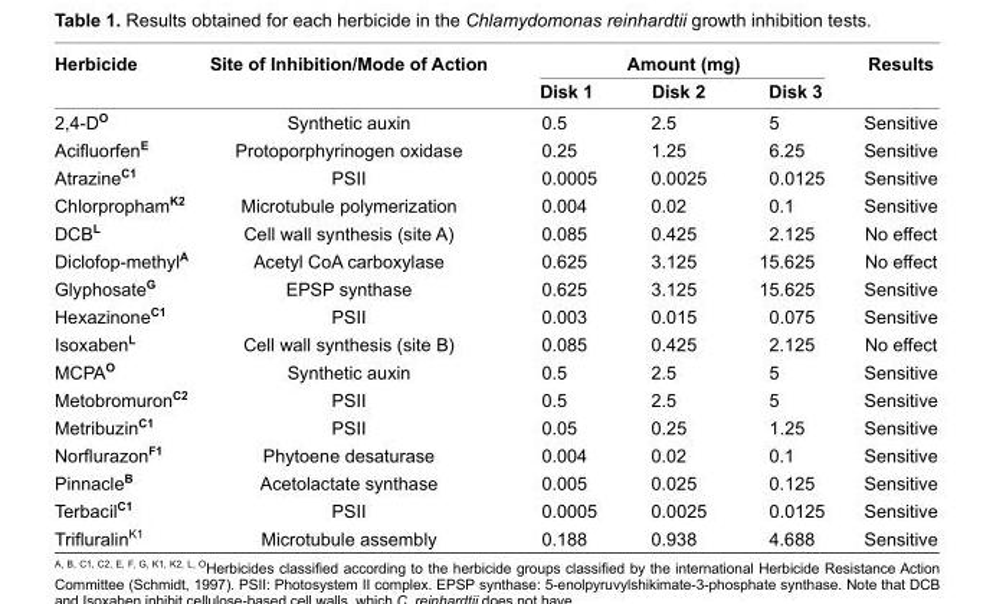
<table><thead><tr><td rowspan="2">Herbicide</td><td rowspan="2">Site of Inhibition/Mode of Action</td><td colspan="3">Amount (mg)</td><td rowspan="2">Results</td></tr><tr><td>Disk 1</td><td>Disk 2</td><td>Disk 3</td></tr></thead><tbody><tr><td>2,4-D<sup>O</sup></td><td>Synthetic auxin</td><td>0.5</td><td>2.5</td><td>5</td><td>Sensitive</td></tr><tr><td>Acifl uorfen<sup>E</sup></td><td>Protoporphyrinogen oxidase</td><td>0.25</td><td>1.25</td><td>6.25</td><td>Sensitive</td></tr><tr><td>AtrazineC1</td><td>PSII</td><td>0.0005</td><td>0.0025</td><td>0.0125</td><td>Sensitive</td></tr><tr><td>ChlorprophamK2</td><td>Microtubule polymerization</td><td>0.004</td><td>0.02</td><td>0.1</td><td>Sensitive</td></tr><tr><td>DCB<sup>L</sup></td><td>Cell wall synthesis (site A)</td><td>0.085</td><td>0.425</td><td>2.125</td><td>No effect</td></tr><tr><td>Diclofop-methyl<sup>A</sup></td><td>Acetyl CoA carboxylase</td><td>0.625</td><td>3.125</td><td>15.625</td><td>No effect</td></tr><tr><td>Glyphosate<sup>G</sup></td><td>EPSP synthase</td><td>0.625</td><td>3.125</td><td>15.625</td><td>Sensitive</td></tr><tr><td>HexazinoneC1</td><td>PSII</td><td>0.003</td><td>0.015</td><td>0.075</td><td>Sensitive</td></tr><tr><td>Isoxaben<sup>L</sup></td><td>Cell wall synthesis (site B)</td><td>0.085</td><td>0.425</td><td>2.125</td><td>No effect</td></tr><tr><td>MCPA<sup>O</sup></td><td>Synthetic auxin</td><td>0.5</td><td>2.5</td><td>5</td><td>Sensitive</td></tr><tr><td>MetobromuronC2</td><td>PSII</td><td>0.5</td><td>2.5</td><td>5</td><td>Sensitive</td></tr><tr><td>MetribuzinC1</td><td>PSII</td><td>0.05</td><td>0.25</td><td>1.25</td><td>Sensitive</td></tr><tr><td>Norfl urazonF1</td><td>Phytoene desaturase</td><td>0.004</td><td>0.02</td><td>0.1</td><td>Sensitive</td></tr><tr><td>Pinnacle<sup>B</sup></td><td>Acetolactate synthase</td><td>0.005</td><td>0.025</td><td>0.125</td><td>Sensitive</td></tr><tr><td>TerbacilC1</td><td>PSII</td><td>0.0005</td><td>0.0025</td><td>0.0125</td><td>Sensitive</td></tr><tr><td>Trifl uralinK1</td><td>Microtubule assembly</td><td>0.188</td><td>0.938</td><td>4.688</td><td>Sensitive</td></tr></tbody></table>